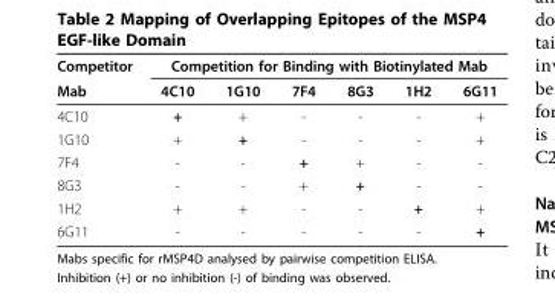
<table><thead><tr><td rowspan="2">Competitor Mab</td><td colspan="6">Competition for Binding with Biotinylated Mab</td></tr><tr><td>4C10</td><td>1G10</td><td>7F4</td><td>8G3</td><td>1H2</td><td>6G11</td></tr></thead><tbody><tr><td>4C10</td><td>+</td><td>+</td><td>-</td><td>-</td><td>-</td><td>+</td></tr><tr><td>1G10</td><td>+</td><td>+</td><td>-</td><td>-</td><td>-</td><td>+</td></tr><tr><td>7F4</td><td>-</td><td>-</td><td>+</td><td>+</td><td>-</td><td>-</td></tr><tr><td>8G3</td><td>-</td><td>-</td><td>+</td><td>+</td><td>-</td><td>-</td></tr><tr><td>1H2</td><td>+</td><td>+</td><td>-</td><td>-</td><td>+</td><td>+</td></tr><tr><td>6G11</td><td>-</td><td>-</td><td>-</td><td>-</td><td>-</td><td>+</td></tr></tbody></table>